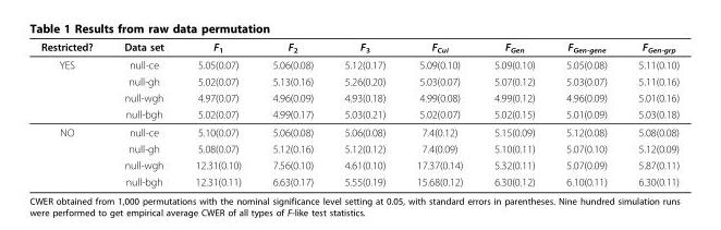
<table><thead><tr><td>Restricted?</td><td>Data set</td><td>F<sub>1</sub></td><td>F<sub>2</sub></td><td>F<sub>3</sub></td><td>F<sub>Cui</sub></td><td>F<sub>Gen</sub></td><td>F<sub>Gen-gene</sub></td><td>F<sub>Gen-grp</sub></td></tr></thead><tbody><tr><td rowspan="4">YES</td><td>null-ce</td><td>5.05(0.07)</td><td>5.06(0.08)</td><td>5.12(0.17)</td><td>5.09(0.10)</td><td>5.09(0.10)</td><td>5.05(0.08)</td><td>5.11(0.10)</td></tr><tr><td>null-gh</td><td>5.02(0.07)</td><td>5.13(0.16)</td><td>5.26(0.20)</td><td>5.03(0.07)</td><td>5.07(0.12)</td><td>5.03(0.07)</td><td>5.11(0.16)</td></tr><tr><td>null-wgh</td><td>4.97(0.07)</td><td>4.96(0.09)</td><td>4.93(0.18)</td><td>4.99(0.08)</td><td>4.99(0.12)</td><td>4.96(0.09)</td><td>5.01(0.16)</td></tr><tr><td>null-bgh</td><td>5.02(0.07)</td><td>4.99(0.17)</td><td>5.03(0.21)</td><td>5.02(0.07)</td><td>5.02(0.15)</td><td>5.01(0.09)</td><td>5.03(0.18)</td></tr><tr><td rowspan="4">NO</td><td>null-ce</td><td>5.10(0.07)</td><td>5.06(0.08)</td><td>5.06(0.08)</td><td>7.4(0.12)</td><td>5.15(0.09)</td><td>5.12(0.08)</td><td>5.08(0.08)</td></tr><tr><td>null-gh</td><td>5.08(0.07)</td><td>5.12(0.16)</td><td>5.12(0.12)</td><td>7.4(0.09)</td><td>5.10(0.11)</td><td>5.07(0.10)</td><td>5.12(0.09)</td></tr><tr><td>null-wgh</td><td>12.31(0.10)</td><td>7.56(0.10)</td><td>4.61(0.10)</td><td>17.37(0.14)</td><td>5.32(0.11)</td><td>5.07(0.09)</td><td>5.87(0.11)</td></tr><tr><td>null-bgh</td><td>12.31(0.11)</td><td>6.63(0.17)</td><td>5.55(0.19)</td><td>15.68(0.12)</td><td>6.30(0.12)</td><td>6.10(0.11)</td><td>6.30(0.11)</td></tr></tbody></table>